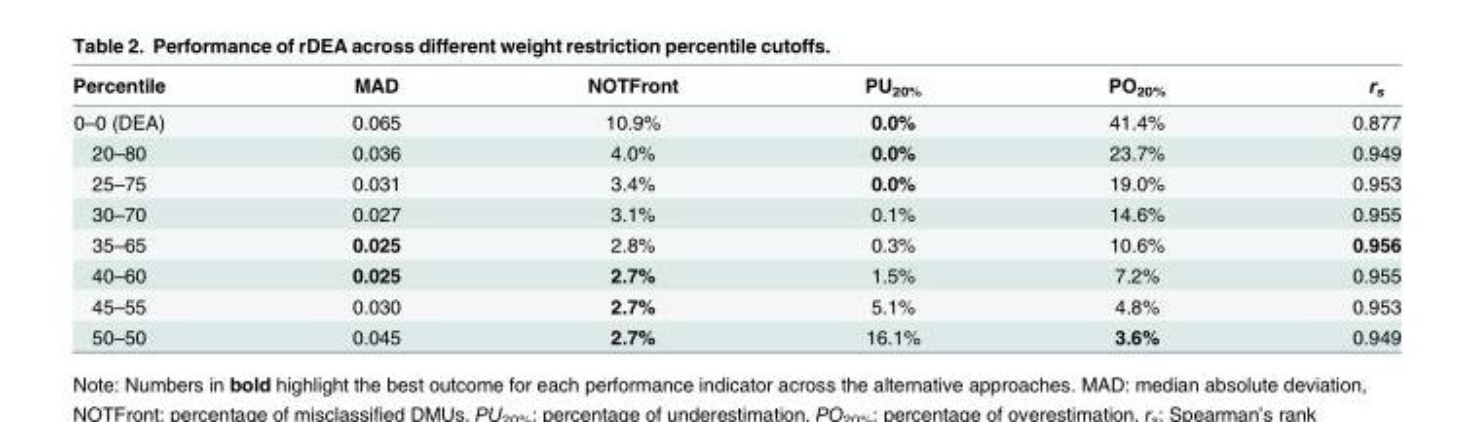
<table><thead><tr><td>Percentile</td><td>MAD</td><td>NOTFront</td><td>PU<sub>20%</sub></td><td>PO<sub>20%</sub></td><td>r<sub>s</sub></td></tr></thead><tbody><tr><td>0–0 (DEA)</td><td>0.065</td><td>10.9%</td><td>0.0%</td><td>41.4%</td><td>0.877</td></tr><tr><td>20–80</td><td>0.036</td><td>4.0%</td><td>0.0%</td><td>23.7%</td><td>0.949</td></tr><tr><td>25–75</td><td>0.031</td><td>3.4%</td><td>0.0%</td><td>19.0%</td><td>0.953</td></tr><tr><td>30–70</td><td>0.027</td><td>3.1%</td><td>0.1%</td><td>14.6%</td><td>0.955</td></tr><tr><td>35–65</td><td>0.025</td><td>2.8%</td><td>0.3%</td><td>10.6%</td><td>0.956</td></tr><tr><td>40–60</td><td>0.025</td><td>2.7%</td><td>1.5%</td><td>7.2%</td><td>0.955</td></tr><tr><td>45–55</td><td>0.030</td><td>2.7%</td><td>5.1%</td><td>4.8%</td><td>0.953</td></tr><tr><td>50–50</td><td>0.045</td><td>2.7%</td><td>16.1%</td><td>3.6%</td><td>0.949</td></tr></tbody></table>